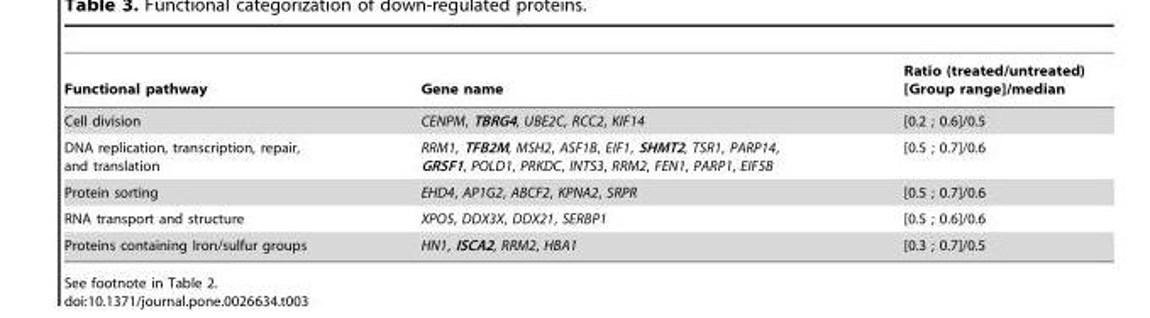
<table><thead><tr><td>Functional pathway</td><td>Gene name</td><td>Ratio (treated/untreated) [Group range]/median</td></tr></thead><tbody><tr><td>Cell division</td><td>CENPM, TBRG4, UBE2C, RCC2, KIF14</td><td>[0.2 ; 0.6]/0.5</td></tr><tr><td>DNA replication, transcription, repair, and translation</td><td>RRM1, TFB2M, MSH2, ASF1B, EIF1, SHMT2, TSR1, PARP14, GRSF1, POLD1, PRKDC, INTS3, RRM2, FEN1, PARP1, EIF5B</td><td>[0.5 ; 0.7]/0.6</td></tr><tr><td>Protein sorting</td><td>EHD4, AP1G2, ABCF2, KPNA2, SRPR</td><td>[0.5 ; 0.7]/0.6</td></tr><tr><td>RNA transport and structure</td><td>XPO5, DDX3X, DDX21, SERBP1</td><td>[0.5 ; 0.6]/0.6</td></tr><tr><td>Proteins containing Iron/sulfur groups</td><td>HN1, ISCA2, RRM2, HBA1</td><td>[0.3 ; 0.7]/0.5</td></tr></tbody></table>